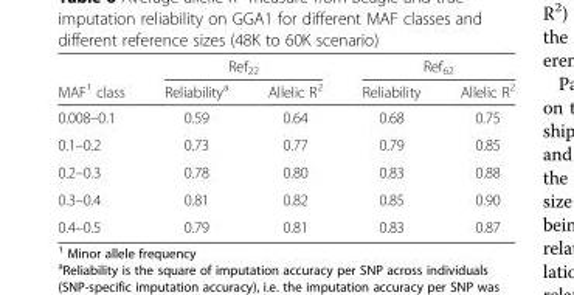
<table><thead><tr><td rowspan="2">MAF<sup>1</sup> class</td><td colspan="2">Ref<sub>22</sub></td><td colspan="2">Ref<sub>62</sub></td></tr><tr><td>Reliability<sup>a</sup></td><td>Allelic R<sup>2</sup></td><td>Reliability</td><td>Allelic R<sup>2</sup></td></tr></thead><tbody><tr><td>0.008–0.1</td><td>0.59</td><td>0.64</td><td>0.68</td><td>0.75</td></tr><tr><td>0.1–0.2</td><td>0.73</td><td>0.77</td><td>0.79</td><td>0.85</td></tr><tr><td>0.2–0.3</td><td>0.78</td><td>0.80</td><td>0.83</td><td>0.88</td></tr><tr><td>0.3–0.4</td><td>0.81</td><td>0.82</td><td>0.85</td><td>0.90</td></tr><tr><td>0.4–0.5</td><td>0.79</td><td>0.81</td><td>0.83</td><td>0.87</td></tr></tbody></table>